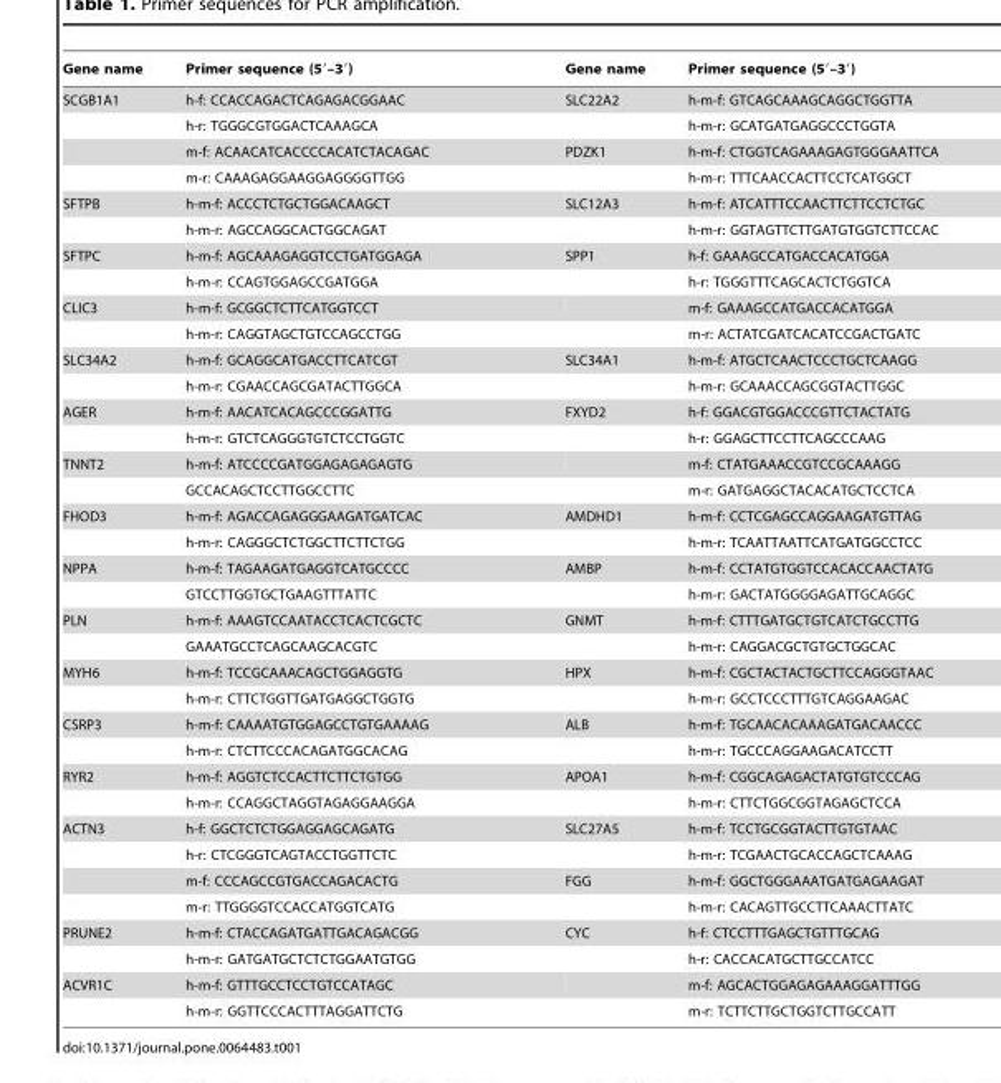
<table><thead><tr><td>Gene name</td><td>Primer sequence (5′–3′)</td><td>Gene name</td><td>Primer sequence (5′–3′)</td></tr></thead><tbody><tr><td rowspan="4">SCGB1A1</td><td>h-f: CCACCAGACTCAGAGACGGAAC</td><td>SLC22A2</td><td>h-m-f: GTCAGCAAAGCAGGCTGGTTA</td></tr><tr><td>h-r: TGGGCGTGGACTCAAAGCA</td><td></td><td>h-m-r: GCATGATGAGGCCCTGGTA</td></tr><tr><td>m-f: ACAACATCACCCCACATCTACAGAC</td><td>PDZK1</td><td>h-m-f: CTGGTCAGAAAGAGTGGGAATTCA</td></tr><tr><td>m-r: CAAAGAGGAAGGAGGGGTTGG</td><td></td><td>h-m-r: TTTCAACCACTTCCTCATGGCT</td></tr><tr><td rowspan="2">SFTPB</td><td>h-m-f: ACCCTCTGCTGGACAAGCT</td><td>SLC12A3</td><td>h-m-f: ATCATTTCCAACTTCTTCCTCTGC</td></tr><tr><td>h-m-r: AGCCAGGCACTGGCAGAT</td><td></td><td>h-m-r: GGTAGTTCTTGATGTGGTCTTCCAC</td></tr><tr><td rowspan="2">SFTPC</td><td>h-m-f: AGCAAAGAGGTCCTGATGGAGA</td><td>SPP1</td><td>h-f: GAAAGCCATGACCACATGGA</td></tr><tr><td>h-m-r: CCAGTGGAGCCGATGGA</td><td></td><td>h-r: TGGGTTTCAGCACTCTGGTCA</td></tr><tr><td rowspan="2">CLIC3</td><td>h-m-f: GCGGCTCTTCATGGTCCT</td><td></td><td>m-f: GAAAGCCATGACCACATGGA</td></tr><tr><td>h-m-r: CAGGTAGCTGTCCAGCCTGG</td><td></td><td>m-r: ACTATCGATCACATCCGACTGATC</td></tr><tr><td rowspan="2">SLC34A2</td><td>h-m-f: GCAGGCATGACCTTCATCGT</td><td>SLC34A1</td><td>h-m-f: ATGCTCAACTCCCTGCTCAAGG</td></tr><tr><td>h-m-r: CGAACCAGCGATACTTGGCA</td><td></td><td>h-m-r: GCAAACCAGCGGTACTTGGC</td></tr><tr><td rowspan="2">AGER</td><td>h-m-f: AACATCACAGCCCGGATTG</td><td>FXYD2</td><td>h-f: GGACGTGGACCCGTTCTACTATG</td></tr><tr><td>h-m-r: GTCTCAGGGTGTCTCCTGGTC</td><td></td><td>h-r: GGAGCTTCCTTCAGCCCAAG</td></tr><tr><td rowspan="2">TNNT2</td><td>h-m-f: ATCCCCGATGGAGAGAGAGTG</td><td></td><td>m-f: CTATGAAACCGTCCGCAAAGG</td></tr><tr><td>GCCACAGCTCCTTGGCCTTC</td><td></td><td>m-r: GATGAGGCTACACATGCTCCTCA</td></tr><tr><td rowspan="2">FHOD3</td><td>h-m-f: AGACCAGAGGGAAGATGATCAC</td><td>AMDHD1</td><td>h-m-f: CCTCGAGCCAGGAAGATGTTAG</td></tr><tr><td>h-m-r: CAGGGCTCTGGCTTCTTCTGG</td><td></td><td>h-m-r: TCAATTAATTCATGATGGCCTCC</td></tr><tr><td rowspan="2">NPPA</td><td>h-m-f: TAGAAGATGAGGTCATGCCCC</td><td>AMBP</td><td>h-m-f: CCTATGTGGTCCACACCAACTATG</td></tr><tr><td>GTCCTTGGTGCTGAAGTTTATTC</td><td></td><td>h-m-r: GACTATGGGGAGATTGCAGGC</td></tr><tr><td rowspan="2">PLN</td><td>h-m-f: AAAGTCCAATACCTCACTCGCTC</td><td>GNMT</td><td>h-m-f: CTTTGATGCTGTCATCTGCCTTG</td></tr><tr><td>GAAATGCCTCAGCAAGCACGTC</td><td></td><td>h-m-r: CAGGACGCTGTGCTGGCAC</td></tr><tr><td rowspan="2">MYH6</td><td>h-m-f: TCCGCAAACAGCTGGAGGTG</td><td>HPX</td><td>h-m-f: CGCTACTACTGCTTCCAGGGTAAC</td></tr><tr><td>h-m-r: CTTCTGGTTGATGAGGCTGGTG</td><td></td><td>h-m-r: GCCTCCCTTTGTCAGGAAGAC</td></tr><tr><td rowspan="2">CSRP3</td><td>h-m-f: CAAAATGTGGAGCCTGTGAAAAG</td><td>ALB</td><td>h-m-f: TGCAACACAAAGATGACAACCC</td></tr><tr><td>h-m-r: CTCTTCCCACAGATGGCACAG</td><td></td><td>h-m-r: TGCCCAGGAAGACATCCTT</td></tr><tr><td rowspan="2">RYR2</td><td>h-m-f: AGGTCTCCACTTCTTCTGTGG</td><td>APOA1</td><td>h-m-f: CGGCAGAGACTATGTGTCCCAG</td></tr><tr><td>h-m-r: CCAGGCTAGGTAGAGGAAGGA</td><td></td><td>h-m-r: CTTCTGGCGGTAGAGCTCCA</td></tr><tr><td rowspan="4">ACTN3</td><td>h-f: GGCTCTCTGGAGGAGCAGATG</td><td>SLC27A5</td><td>h-m-f: TCCTGCGGTACTTGTGTAAC</td></tr><tr><td>h-r: CTCGGGTCAGTACCTGGTTCTC</td><td></td><td>h-m-r: TCGAACTGCACCAGCTCAAAG</td></tr><tr><td>m-f: CCCAGCCGTGACCAGACACTG</td><td>FGG</td><td>h-m-f: GGCTGGGAAATGATGAGAAGAT</td></tr><tr><td>m-r: TTGGGGTCCACCATGGTCATG</td><td></td><td>h-m-r: CACAGTTGCCTTCAAACTTATC</td></tr><tr><td rowspan="2">PRUNE2</td><td>h-m-f: CTACCAGATGATTGACAGACGG</td><td>CYC</td><td>h-f: CTCCTTTGAGCTGTTTGCAG</td></tr><tr><td>h-m-r: GATGATGCTCTCTGGAATGTGG</td><td></td><td>h-r: CACCACATGCTTGCCATCC</td></tr><tr><td rowspan="2">ACVR1C</td><td>h-m-f: GTTTGCCTCCTGTCCATAGC</td><td></td><td>m-f: AGCACTGGAGAGAAAGGATTTGG</td></tr><tr><td>h-m-r: GGTTCCCACTTTAGGATTCTG</td><td></td><td>m-r: TCTTCTTGCTGGTCTTGCCATT</td></tr></tbody></table>